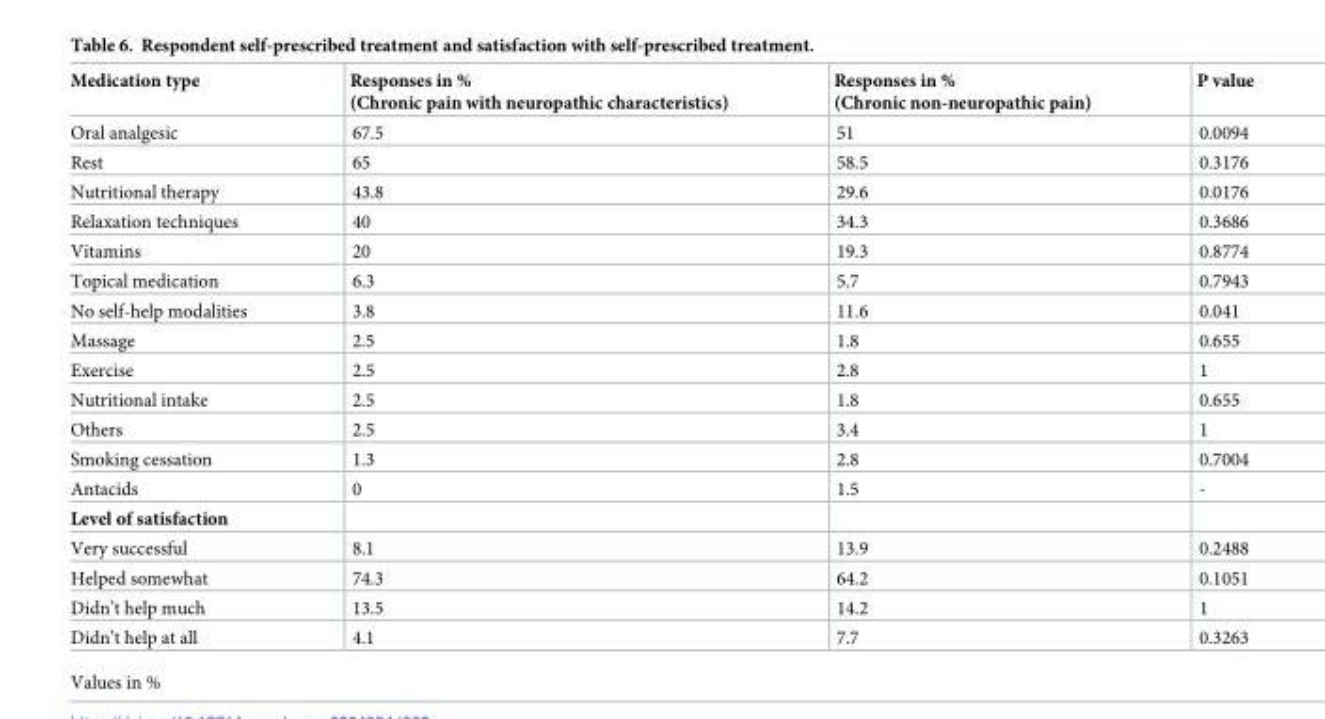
<table><thead><tr><td>Medication type</td><td>Responses in % (Chronic pain with neuropathic characteristics)</td><td>Responses in % (Chronic non-neuropathic pain)</td><td>P value</td></tr></thead><tbody><tr><td>Oral analgesic</td><td>67.5</td><td>51</td><td>0.0094</td></tr><tr><td>Rest</td><td>65</td><td>58.5</td><td>0.3176</td></tr><tr><td>Nutritional therapy</td><td>43.8</td><td>29.6</td><td>0.0176</td></tr><tr><td>Relaxation techniques</td><td>40</td><td>34.3</td><td>0.3686</td></tr><tr><td>Vitamins</td><td>20</td><td>19.3</td><td>0.8774</td></tr><tr><td>Topical medication</td><td>6.3</td><td>5.7</td><td>0.7943</td></tr><tr><td>No self-help modalities</td><td>3.8</td><td>11.6</td><td>0.041</td></tr><tr><td>Massage</td><td>2.5</td><td>1.8</td><td>0.655</td></tr><tr><td>Exercise</td><td>2.5</td><td>2.8</td><td>1</td></tr><tr><td>Nutritional intake</td><td>2.5</td><td>1.8</td><td>0.655</td></tr><tr><td>Others</td><td>2.5</td><td>3.4</td><td>1</td></tr><tr><td>Smoking cessation</td><td>1.3</td><td>2.8</td><td>0.7004</td></tr><tr><td>Antacids</td><td>0</td><td>1.5</td><td>-</td></tr><tr><td colspan="4">Level of satisfaction</td></tr><tr><td>Very successful</td><td>8.1</td><td>13.9</td><td>0.2488</td></tr><tr><td>Helped somewhat</td><td>74.3</td><td>64.2</td><td>0.1051</td></tr><tr><td>Didn’t help much</td><td>13.5</td><td>14.2</td><td>1</td></tr><tr><td>Didn’t help at all</td><td>4.1</td><td>7.7</td><td>0.3263</td></tr></tbody></table>